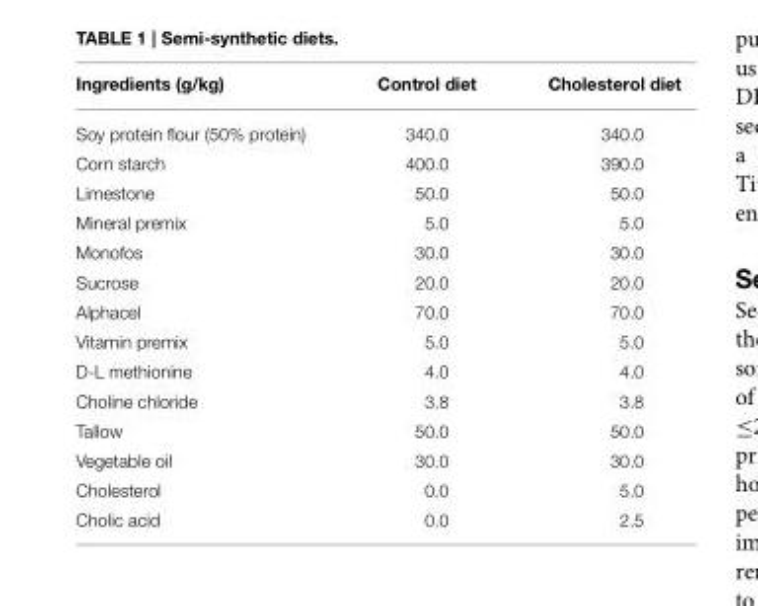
<table><thead><tr><td>Ingredients (g/kg)</td><td>Control diet</td><td>Cholesterol diet</td></tr></thead><tbody><tr><td>Soy protein flour (50% protein)</td><td>340.0</td><td>340.0</td></tr><tr><td>Corn starch</td><td>400.0</td><td>390.0</td></tr><tr><td>Limestone</td><td>50.0</td><td>50.0</td></tr><tr><td>Mineral premix</td><td>5.0</td><td>5.0</td></tr><tr><td>Monofos</td><td>30.0</td><td>30.0</td></tr><tr><td>Sucrose</td><td>20.0</td><td>20.0</td></tr><tr><td>Alphacel</td><td>70.0</td><td>70.0</td></tr><tr><td>Vitamin premix</td><td>5.0</td><td>5.0</td></tr><tr><td>D-L methionine</td><td>4.0</td><td>4.0</td></tr><tr><td>Choline chloride</td><td>3.8</td><td>3.8</td></tr><tr><td>Tallow</td><td>50.0</td><td>50.0</td></tr><tr><td>Vegetable oil</td><td>30.0</td><td>30.0</td></tr><tr><td>Cholesterol</td><td>0.0</td><td>5.0</td></tr><tr><td>Cholic acid</td><td>0.0</td><td>2.5</td></tr></tbody></table>